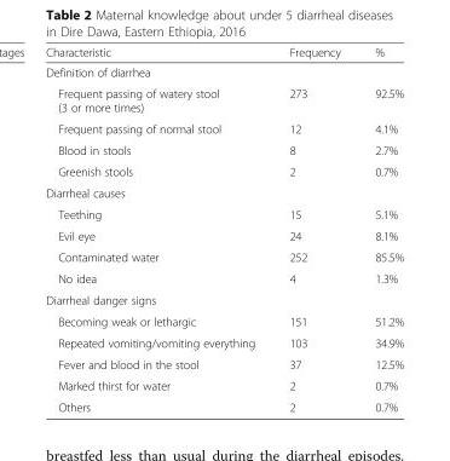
<table><thead><tr><td>Characteristic</td><td>Frequency</td><td>%</td></tr></thead><tbody><tr><td colspan="3">Definition of diarrhea</td></tr><tr><td>Frequent passing of watery stool (3 or more times)</td><td>273</td><td>92.5%</td></tr><tr><td>Frequent passing of normal stool</td><td>12</td><td>4.1%</td></tr><tr><td>Blood in stools</td><td>8</td><td>2.7%</td></tr><tr><td>Greenish stools</td><td>2</td><td>0.7%</td></tr><tr><td colspan="3">Diarrheal causes</td></tr><tr><td>Teething</td><td>15</td><td>5.1%</td></tr><tr><td>Evil eye</td><td>24</td><td>8.1%</td></tr><tr><td>Contaminated water</td><td>252</td><td>85.5%</td></tr><tr><td>No idea</td><td>4</td><td>1.3%</td></tr><tr><td colspan="3">Diarrheal danger signs</td></tr><tr><td>Becoming weak or lethargic</td><td>151</td><td>51.2%</td></tr><tr><td>Repeated vomiting/vomiting everything</td><td>103</td><td>34.9%</td></tr><tr><td>Fever and blood in the stool</td><td>37</td><td>12.5%</td></tr><tr><td>Marked thirst for water</td><td>2</td><td>0.7%</td></tr><tr><td>Others</td><td>2</td><td>0.7%</td></tr></tbody></table>